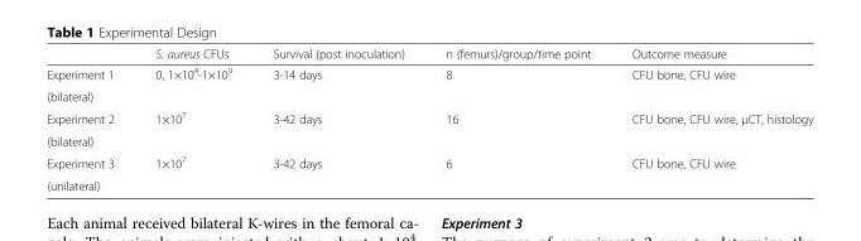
<table><thead><tr><td></td><td>S. aureus CFUs</td><td>Survival (post inoculation)</td><td>n (femurs)/group/time point</td><td>Outcome measure</td></tr></thead><tbody><tr><td>Experiment 1</td><td rowspan="2">0, 1×10<sup>4</sup>-1×10<sup>9</sup></td><td rowspan="2">3-14 days</td><td rowspan="2">8</td><td rowspan="2">CFU bone, CFU wire</td></tr><tr><td>(bilateral)</td></tr><tr><td>Experiment 2</td><td rowspan="2">1×10<sup>7</sup></td><td rowspan="2">3-42 days</td><td rowspan="2">16</td><td rowspan="2">CFU bone, CFU wire, μCT, histology</td></tr><tr><td>(bilateral)</td></tr><tr><td>Experiment 3</td><td rowspan="2">1×10<sup>7</sup></td><td rowspan="2">3-42 days</td><td rowspan="2">6</td><td rowspan="2">CFU bone, CFU wire</td></tr><tr><td>(unilateral)</td></tr></tbody></table>